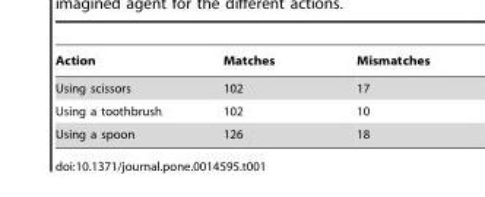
<table><thead><tr><td>Action</td><td>Matches</td><td>Mismatches</td></tr></thead><tbody><tr><td>Using scissors</td><td>102</td><td>17</td></tr><tr><td>Using a toothbrush</td><td>102</td><td>10</td></tr><tr><td>Using a spoon</td><td>126</td><td>18</td></tr></tbody></table>